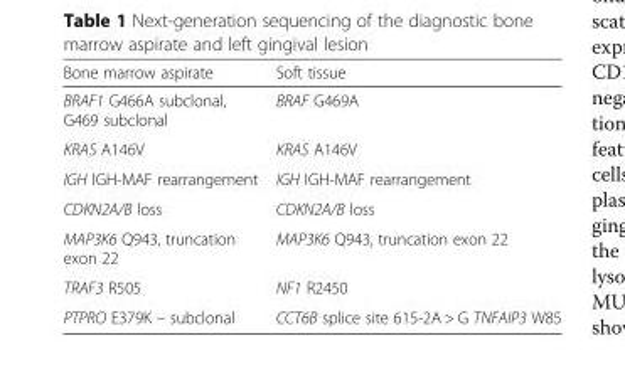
<table><thead><tr><td>Bone marrow aspirate</td><td>Soft tissue</td></tr></thead><tbody><tr><td>BRAF1 G466A subclonal, G469 subclonal</td><td>BRAF G469A</td></tr><tr><td>KRAS A146V</td><td>KRAS A146V</td></tr><tr><td>IGH IGH-MAF rearrangement</td><td>IGH IGH-MAF rearrangement</td></tr><tr><td>CDKN2A/B loss</td><td>CDKN2A/B loss</td></tr><tr><td>MAP3K6 Q943, truncation exon 22</td><td>MAP3K6 Q943, truncation exon 22</td></tr><tr><td>TRAF3 R505</td><td>NF1 R2450</td></tr><tr><td>PTPRO E379K – subclonal</td><td>CCT6B splice site 615-2A &gt; G TNFAIP3 W85</td></tr></tbody></table>